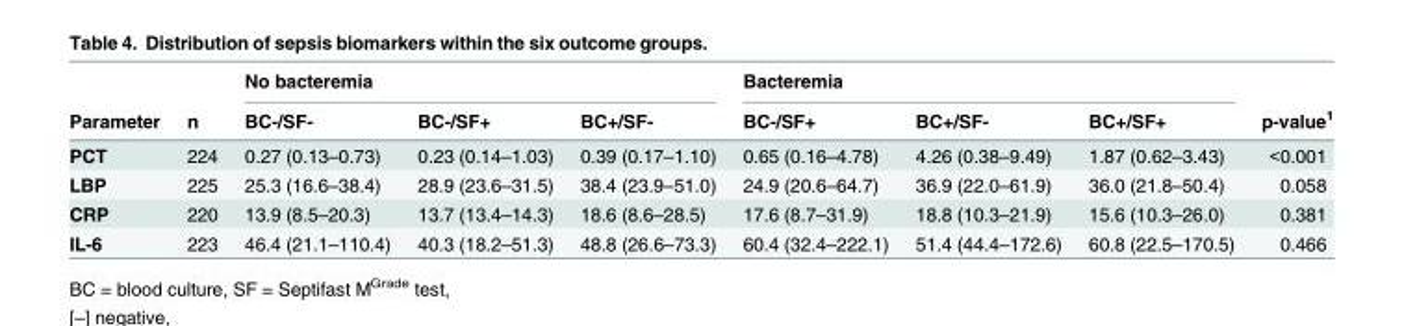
<table><thead><tr><td rowspan="2">Parameter</td><td rowspan="2">n</td><td colspan="3">No bacteremia</td><td colspan="3">Bacteremia</td><td rowspan="2">p-value<sup>1</sup></td></tr><tr><td>BC-/SF-</td><td>BC-/SF+</td><td>BC+/SF-</td><td>BC-/SF+</td><td>BC+/SF-</td><td>BC+/SF+</td></tr></thead><tbody><tr><td>PCT</td><td>224</td><td>0.27 (0.13–0.73)</td><td>0.23 (0.14–1.03)</td><td>0.39 (0.17–1.10)</td><td>0.65 (0.16–4.78)</td><td>4.26 (0.38–9.49)</td><td>1.87 (0.62–3.43)</td><td>&lt;0.001</td></tr><tr><td>LBP</td><td>225</td><td>25.3 (16.6–38.4)</td><td>28.9 (23.6–31.5)</td><td>38.4 (23.9–51.0)</td><td>24.9 (20.6–64.7)</td><td>36.9 (22.0–61.9)</td><td>36.0 (21.8–50.4)</td><td>0.058</td></tr><tr><td>CRP</td><td>220</td><td>13.9 (8.5–20.3)</td><td>13.7 (13.4–14.3)</td><td>18.6 (8.6–28.5)</td><td>17.6 (8.7–31.9)</td><td>18.8 (10.3–21.9)</td><td>15.6 (10.3–26.0)</td><td>0.381</td></tr><tr><td>IL-6</td><td>223</td><td>46.4 (21.1–110.4)</td><td>40.3 (18.2–51.3)</td><td>48.8 (26.6–73.3)</td><td>60.4 (32.4–222.1)</td><td>51.4 (44.4–172.6)</td><td>60.8 (22.5–170.5)</td><td>0.466</td></tr></tbody></table>